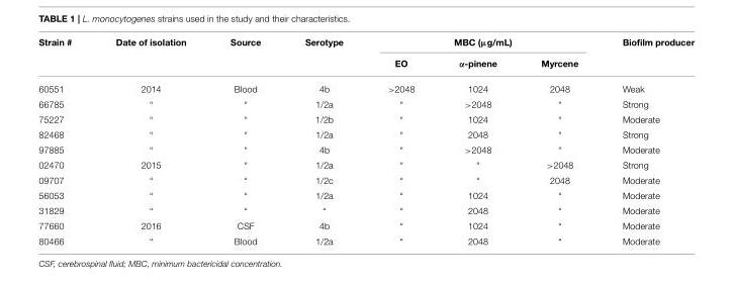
<table><thead><tr><td rowspan="2">Strain #</td><td rowspan="2">Date of isolation</td><td rowspan="2">Source</td><td rowspan="2">Serotype</td><td colspan="3">MBC (µg/mL)</td><td rowspan="2">Biofilm producer</td></tr><tr><td>EO</td><td>α-pinene</td><td>Myrcene</td></tr></thead><tbody><tr><td>60551</td><td>2014</td><td>Blood</td><td>4b</td><td>&gt;2048</td><td>1024</td><td>2048</td><td>Weak</td></tr><tr><td>66785</td><td>“</td><td>“</td><td>1/2a</td><td>“</td><td>&gt;2048</td><td>“</td><td>Strong</td></tr><tr><td>75227</td><td>“</td><td>“</td><td>1/2b</td><td>“</td><td>1024</td><td>“</td><td>Moderate</td></tr><tr><td>82468</td><td>“</td><td>“</td><td>1/2a</td><td>“</td><td>2048</td><td>“</td><td>Strong</td></tr><tr><td>97885</td><td>“</td><td>“</td><td>4b</td><td>“</td><td>&gt;2048</td><td>“</td><td>Moderate</td></tr><tr><td>02470</td><td>2015</td><td>“</td><td>1/2a</td><td>“</td><td>“</td><td>&gt;2048</td><td>Strong</td></tr><tr><td>09707</td><td>“</td><td>“</td><td>1/2c</td><td>“</td><td>“</td><td>2048</td><td>Moderate</td></tr><tr><td>56053</td><td>“</td><td>“</td><td>1/2a</td><td>“</td><td>1024</td><td>“</td><td>Moderate</td></tr><tr><td>31829</td><td>“</td><td>“</td><td>“</td><td>“</td><td>2048</td><td>“</td><td>Moderate</td></tr><tr><td>77660</td><td>2016</td><td>CSF</td><td>4b</td><td>“</td><td>1024</td><td>“</td><td>Moderate</td></tr><tr><td>80466</td><td>“</td><td>Blood</td><td>1/2a</td><td>“</td><td>2048</td><td>“</td><td>Moderate</td></tr></tbody></table>